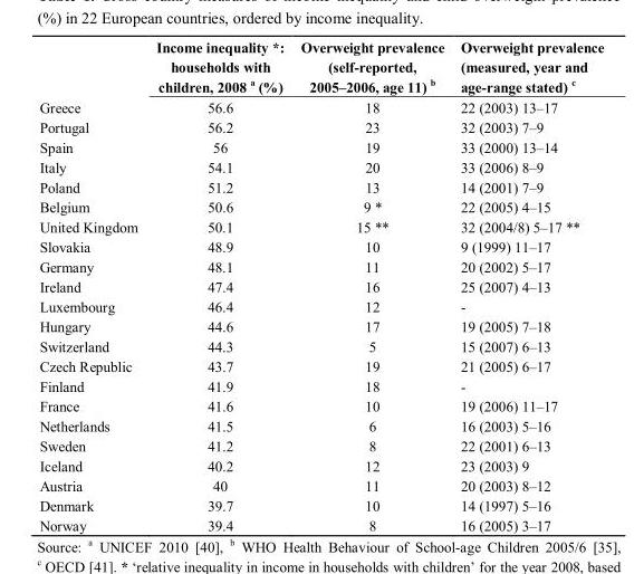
<table><thead><tr><td></td><td>Income inequality *: households with children, 2008 <sup>a</sup> (%)</td><td>Overweight prevalence (self-reported, 2005–2006, age 11) <sup>b</sup></td><td>Overweight prevalence (measured, year and age-range stated) <sup>c</sup></td></tr></thead><tbody><tr><td>Greece</td><td>56.6</td><td>18</td><td>22 (2003) 13–17</td></tr><tr><td>Portugal</td><td>56.2</td><td>23</td><td>32 (2003) 7–9</td></tr><tr><td>Spain</td><td>56</td><td>19</td><td>33 (2000) 13–14</td></tr><tr><td>Italy</td><td>54.1</td><td>20</td><td>33 (2006) 8–9</td></tr><tr><td>Poland</td><td>51.2</td><td>13</td><td>14 (2001) 7–9</td></tr><tr><td>Belgium</td><td>50.6</td><td>9 *</td><td>22 (2005) 4–15</td></tr><tr><td>United Kingdom</td><td>50.1</td><td>15 **</td><td>32 (2004/8) 5–17 **</td></tr><tr><td>Slovakia</td><td>48.9</td><td>10</td><td>9 (1999) 11–17</td></tr><tr><td>Germany</td><td>48.1</td><td>11</td><td>20 (2002) 5–17</td></tr><tr><td>Ireland</td><td>47.4</td><td>16</td><td>25 (2007) 4–13</td></tr><tr><td>Luxembourg</td><td>46.4</td><td>12</td><td>-</td></tr><tr><td>Hungary</td><td>44.6</td><td>17</td><td>19 (2005) 7–18</td></tr><tr><td>Switzerland</td><td>44.3</td><td>5</td><td>15 (2007) 6–13</td></tr><tr><td>Czech Republic</td><td>43.7</td><td>19</td><td>21 (2005) 6–17</td></tr><tr><td>Finland</td><td>41.9</td><td>18</td><td>-</td></tr><tr><td>France</td><td>41.6</td><td>10</td><td>19 (2006) 11–17</td></tr><tr><td>Netherlands</td><td>41.5</td><td>6</td><td>16 (2003) 5–16</td></tr><tr><td>Sweden</td><td>41.2</td><td>8</td><td>22 (2001) 6–13</td></tr><tr><td>Iceland</td><td>40.2</td><td>12</td><td>23 (2003) 9</td></tr><tr><td>Austria</td><td>40</td><td>11</td><td>20 (2003) 8–12</td></tr><tr><td>Denmark</td><td>39.7</td><td>10</td><td>14 (1997) 5–16</td></tr><tr><td>Norway</td><td>39.4</td><td>8</td><td>16 (2005) 3–17</td></tr></tbody></table>